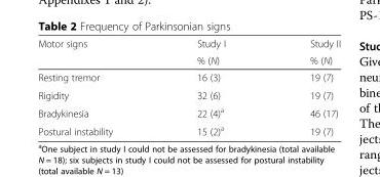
<table><thead><tr><td rowspan="2">Motor signs</td><td rowspan="2">Study I % (N)</td><td rowspan="2">Study II % (N)</td></tr><tr></tr></thead><tbody><tr><td>Resting tremor</td><td>16 (3)</td><td>19 (7)</td></tr><tr><td>Rigidity</td><td>32 (6)</td><td>19 (7)</td></tr><tr><td>Bradykinesia</td><td>22 (4)<sup>a</sup></td><td>46 (17)</td></tr><tr><td>Postural instability</td><td>15 (2)<sup>a</sup></td><td>19 (7)</td></tr></tbody></table>